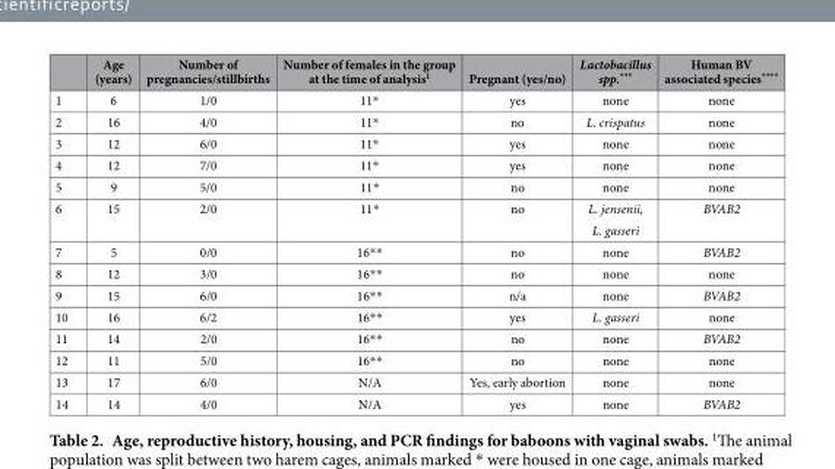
<table><thead><tr><td></td><td>Age (years)</td><td>Number of pregnancies/stillbirths</td><td>Number of females in the group at the time of analysis<sup>1</sup></td><td>Pregnant (yes/no)</td><td>Lactobacillus spp.***</td><td>Human BV associated species****</td></tr></thead><tbody><tr><td>1</td><td>6</td><td>1/0</td><td>11*</td><td>yes</td><td>none</td><td>none</td></tr><tr><td>2</td><td>16</td><td>4/0</td><td>11*</td><td>no</td><td>L. crispatus</td><td>none</td></tr><tr><td>3</td><td>12</td><td>6/0</td><td>11*</td><td>yes</td><td>none</td><td>none</td></tr><tr><td>4</td><td>12</td><td>7/0</td><td>11*</td><td>yes</td><td>none</td><td>none</td></tr><tr><td>5</td><td>9</td><td>5/0</td><td>11*</td><td>no</td><td>none</td><td>none</td></tr><tr><td>6</td><td>15</td><td>2/0</td><td>11*</td><td>no</td><td>L. jensenii, L. gasseri</td><td>BVAB2</td></tr><tr><td>7</td><td>5</td><td>0/0</td><td>16* *</td><td>no</td><td>none</td><td>BVAB2</td></tr><tr><td>8</td><td>12</td><td>3/0</td><td>16* *</td><td>no</td><td>none</td><td>none</td></tr><tr><td>9</td><td>15</td><td>6/0</td><td>16* *</td><td>n/a</td><td>none</td><td>BVAB2</td></tr><tr><td>10</td><td>16</td><td>6/2</td><td>16* *</td><td>yes</td><td>L. gasseri</td><td>none</td></tr><tr><td>11</td><td>14</td><td>2/0</td><td>16* *</td><td>no</td><td>none</td><td>BVAB2</td></tr><tr><td>12</td><td>11</td><td>5/0</td><td>16* *</td><td>no</td><td>none</td><td>none</td></tr><tr><td>13</td><td>17</td><td>6/0</td><td>N/A</td><td>Yes, early abortion</td><td>none</td><td>none</td></tr><tr><td>14</td><td>14</td><td>4/0</td><td>N/A</td><td>yes</td><td>none</td><td>BVAB2</td></tr></tbody></table>